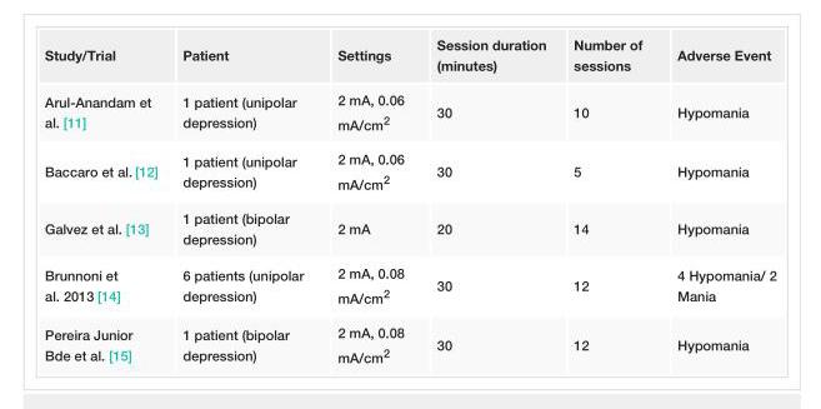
<table><tbody><tr><td>Study/Trial</td><td>Patient</td><td>Settings</td><td>Session duration (minutes)</td><td>Number of sessions</td><td>Adverse Event</td></tr><tr><td>Arul-Anandam et al. [11]</td><td>1 patient (unipolar depression)</td><td>2 mA, 0.06 mA/cm<sup>2</sup></td><td>30</td><td>10</td><td>Hypomania</td></tr><tr><td>Baccaro et al. [12]</td><td>1 patient (unipolar depression)</td><td>2 mA, 0.06 mA/cm<sup>2</sup></td><td>30</td><td>5</td><td>Hypomania</td></tr><tr><td>Galvez et al. [13]</td><td>1 patient (bipolar depression)</td><td>2 mA</td><td>20</td><td>14</td><td>Hypomania</td></tr><tr><td>Brunnoni et al. 2013 [14]</td><td>6 patients (unipolar depression)</td><td>2 mA, 0.08 mA/cm<sup>2</sup></td><td>30</td><td>12</td><td>4 Hypomania/ 2 Mania</td></tr><tr><td>Pereira Junior Bde et al. [15]</td><td>1 patient (bipolar depression)</td><td>2 mA, 0.08 mA/cm<sup>2</sup></td><td>30</td><td>12</td><td>Hypomania</td></tr></tbody></table>